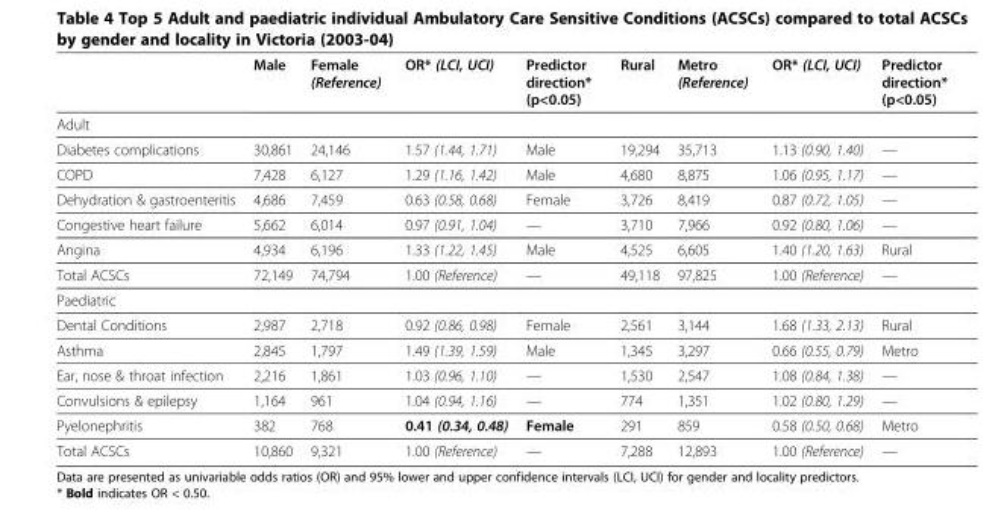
<table><thead><tr><td></td><td>Male</td><td>Female (Reference)</td><td>OR* (LCI, UCI)</td><td>Predictor direction* (p&lt;0.05)</td><td>Rural</td><td>Metro (Reference)</td><td>OR* (LCI, UCI)</td><td>Predictor direction* (p&lt;0.05)</td></tr></thead><tbody><tr><td colspan="9">Adult</td></tr><tr><td>Diabetes complications</td><td>30,861</td><td>24,146</td><td>1.57 (1.44, 1.71)</td><td>Male</td><td>19,294</td><td>35,713</td><td>1.13 (0.90, 1.40)</td><td>—</td></tr><tr><td>COPD</td><td>7,428</td><td>6,127</td><td>1.29 (1.16, 1.42)</td><td>Male</td><td>4,680</td><td>8,875</td><td>1.06 (0.95, 1.17)</td><td>—</td></tr><tr><td>Dehydration &amp; gastroenteritis</td><td>4,686</td><td>7,459</td><td>0.63 (0.58, 0.68)</td><td>Female</td><td>3,726</td><td>8,419</td><td>0.87 (0.72, 1.05)</td><td>—</td></tr><tr><td>Congestive heart failure</td><td>5,662</td><td>6,014</td><td>0.97 (0.91, 1.04)</td><td>—</td><td>3,710</td><td>7,966</td><td>0.92 (0.80, 1.06)</td><td>—</td></tr><tr><td>Angina</td><td>4,934</td><td>6,196</td><td>1.33 (1.22, 1.45)</td><td>Male</td><td>4,525</td><td>6,605</td><td>1.40 (1.20, 1.63)</td><td>Rural</td></tr><tr><td>Total ACSCs</td><td>72,149</td><td>74,794</td><td>1.00 (Reference)</td><td>—</td><td>49,118</td><td>97,825</td><td>1.00 (Reference)</td><td>—</td></tr><tr><td colspan="9">Paediatric</td></tr><tr><td>Dental Conditions</td><td>2,987</td><td>2,718</td><td>0.92 (0.86, 0.98)</td><td>Female</td><td>2,561</td><td>3,144</td><td>1.68 (1.33, 2.13)</td><td>Rural</td></tr><tr><td>Asthma</td><td>2,845</td><td>1,797</td><td>1.49 (1.39, 1.59)</td><td>Male</td><td>1,345</td><td>3,297</td><td>0.66 (0.55, 0.79)</td><td>Metro</td></tr><tr><td>Ear, nose &amp; throat infection</td><td>2,216</td><td>1,861</td><td>1.03 (0.96, 1.10)</td><td>—</td><td>1,530</td><td>2,547</td><td>1.08 (0.84, 1.38)</td><td>—</td></tr><tr><td>Convulsions &amp; epilepsy</td><td>1,164</td><td>961</td><td>1.04 (0.94, 1.16)</td><td>—</td><td>774</td><td>1,351</td><td>1.02 (0.80, 1.29)</td><td>—</td></tr><tr><td>Pyelonephritis</td><td>382</td><td>768</td><td>0.41 (0.34, 0.48)</td><td>Female</td><td>291</td><td>859</td><td>0.58 (0.50, 0.68)</td><td>Metro</td></tr><tr><td>Total ACSCs</td><td>10,860</td><td>9,321</td><td>1.00 (Reference)</td><td>—</td><td>7,288</td><td>12,893</td><td>1.00 (Reference)</td><td>—</td></tr></tbody></table>